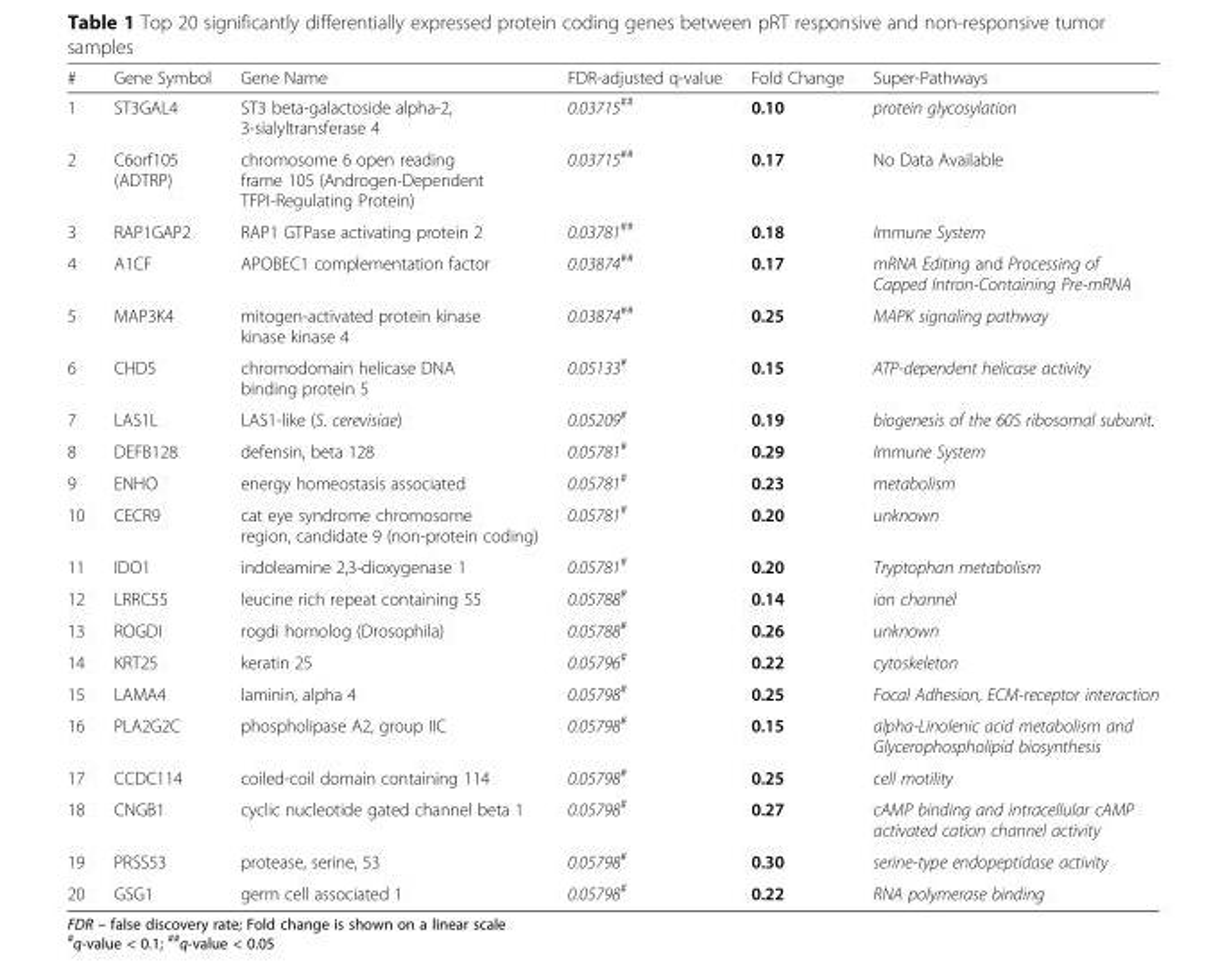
<table><thead><tr><td>#</td><td>Gene Symbol</td><td>Gene Name</td><td>FDR-adjusted q-value</td><td>Fold Change</td><td>Super-Pathways</td></tr></thead><tbody><tr><td>1</td><td>ST3GAL4</td><td>ST3 beta-galactoside alpha-2, 3-sialyltransferase 4</td><td>0.03715<sup>##</sup></td><td>0.10</td><td>protein glycosylation</td></tr><tr><td>2</td><td>C6orf105 (ADTRP)</td><td>chromosome 6 open reading frame 105 (Androgen-Dependent TFPI-Regulating Protein)</td><td>0.03715<sup>##</sup></td><td>0.17</td><td>No Data Available</td></tr><tr><td>3</td><td>RAP1GAP2</td><td>RAP1 GTPase activating protein 2</td><td>0.03781<sup>##</sup></td><td>0.18</td><td>Immune System</td></tr><tr><td>4</td><td>A1CF</td><td>APOBEC1 complementation factor</td><td>0.03874<sup>##</sup></td><td>0.17</td><td>mRNA Editing and Processing of Capped Intron-Containing Pre-mRNA</td></tr><tr><td>5</td><td>MAP3K4</td><td>mitogen-activated protein kinase kinase kinase 4</td><td>0.03874<sup>##</sup></td><td>0.25</td><td>MAPK signaling pathway</td></tr><tr><td>6</td><td>CHD5</td><td>chromodomain helicase DNA binding protein 5</td><td>0.05133<sup>#</sup></td><td>0.15</td><td>ATP-dependent helicase activity</td></tr><tr><td>7</td><td>LAS1L</td><td>LAS1-like (S. cerevisiae)</td><td>0.05209<sup>#</sup></td><td>0.19</td><td>biogenesis of the 60S ribosomal subunit.</td></tr><tr><td>8</td><td>DEFB128</td><td>defensin, beta 128</td><td>0.05781<sup>#</sup></td><td>0.29</td><td>Immune System</td></tr><tr><td>9</td><td>ENHO</td><td>energy homeostasis associated</td><td>0.05781<sup>#</sup></td><td>0.23</td><td>metabolism</td></tr><tr><td>10</td><td>CECR9</td><td>cat eye syndrome chromosome region, candidate 9 (non-protein coding)</td><td>0.05781<sup>#</sup></td><td>0.20</td><td>unknown</td></tr><tr><td>11</td><td>IDO1</td><td>indoleamine 2,3-dioxygenase 1</td><td>0.05781<sup>#</sup></td><td>0.20</td><td>Tryptophan metabolism</td></tr><tr><td>12</td><td>LRRC55</td><td>leucine rich repeat containing 55</td><td>0.05788<sup>#</sup></td><td>0.14</td><td>ion channel</td></tr><tr><td>13</td><td>ROGDI</td><td>rogdi homolog (Drosophila)</td><td>0.05788<sup>#</sup></td><td>0.26</td><td>unknown</td></tr><tr><td>14</td><td>KRT25</td><td>keratin 25</td><td>0.05796<sup>#</sup></td><td>0.22</td><td>cytoskeleton</td></tr><tr><td>15</td><td>LAMA4</td><td>laminin, alpha 4</td><td>0.05798<sup>#</sup></td><td>0.25</td><td>Focal Adhesion, ECM-receptor interaction</td></tr><tr><td>16</td><td>PLA2G2C</td><td>phospholipase A2, group IIC</td><td>0.05798<sup>#</sup></td><td>0.15</td><td>alpha-Linolenic acid metabolism and Glycerophospholipid biosynthesis</td></tr><tr><td>17</td><td>CCDC114</td><td>coiled-coil domain containing 114</td><td>0.05798<sup>#</sup></td><td>0.25</td><td>cell motility</td></tr><tr><td>18</td><td>CNGB1</td><td>cyclic nucleotide gated channel beta 1</td><td>0.05798<sup>#</sup></td><td>0.27</td><td>cAMP binding and intracellular cAMP activated cation channel activity</td></tr><tr><td>19</td><td>PRSS53</td><td>protease, serine, 53</td><td>0.05798<sup>#</sup></td><td>0.30</td><td>serine-type endopeptidase activity</td></tr><tr><td>20</td><td>GSG1</td><td>germ cell associated 1</td><td>0.05798<sup>#</sup></td><td>0.22</td><td>RNA polymerase binding</td></tr></tbody></table>